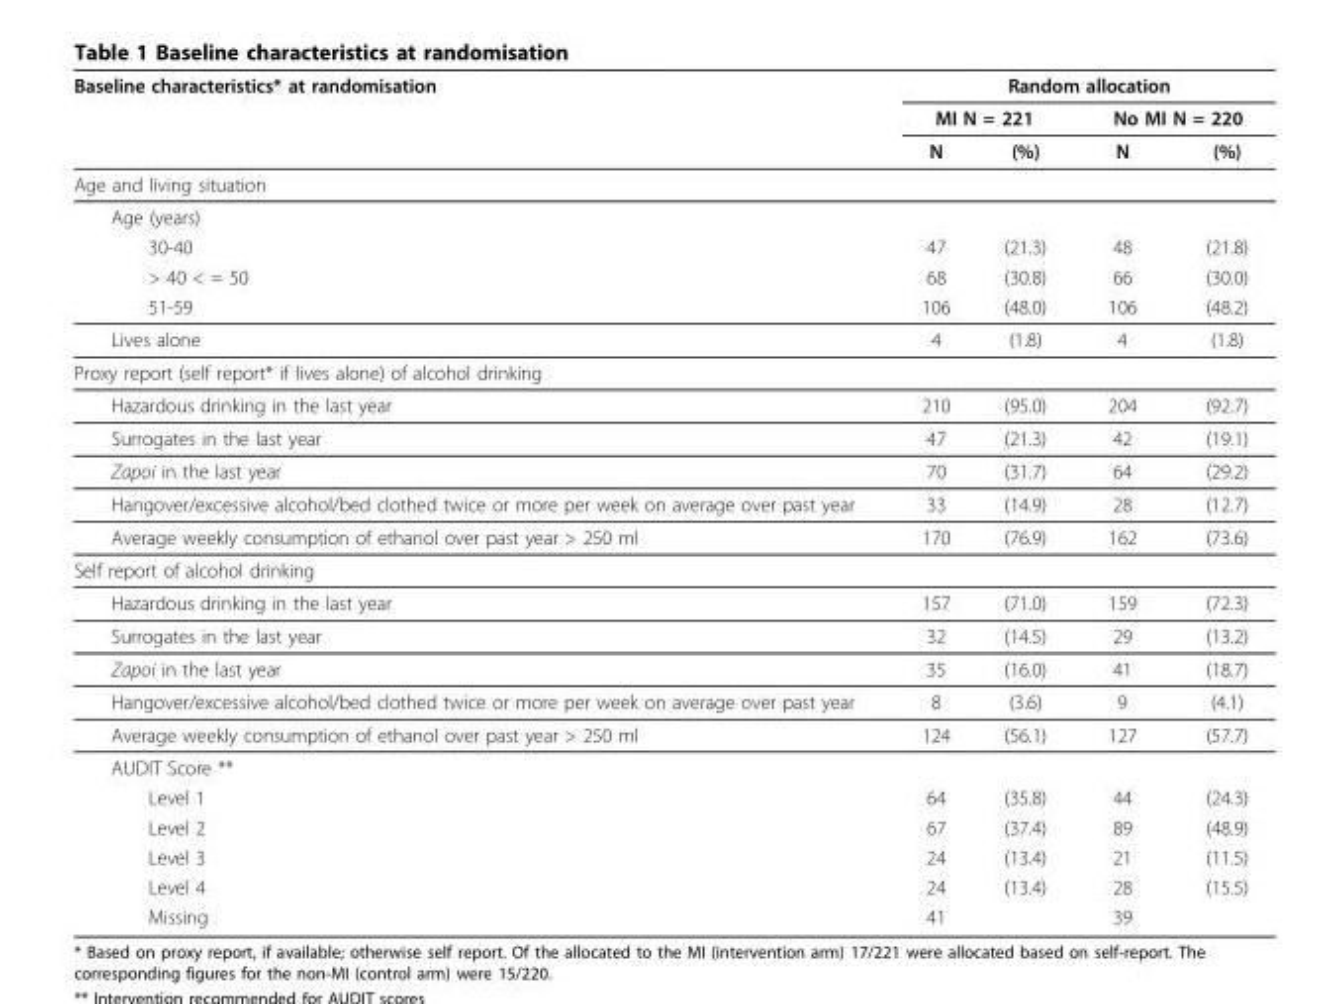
<table><thead><tr><td rowspan="3">Baseline characteristics* at randomisation</td><td colspan="4">Random allocation</td></tr><tr><td colspan="2">MI N = 221</td><td colspan="2">No MI N = 220</td></tr><tr><td>N</td><td>(%)</td><td>N</td><td>(%)</td></tr></thead><tbody><tr><td colspan="5">Age and living situation</td></tr><tr><td colspan="5">Age (years)</td></tr><tr><td>30-40</td><td>47</td><td>(21.3)</td><td>48</td><td>(21.8)</td></tr><tr><td>&gt; 40 &lt; = 50</td><td>68</td><td>(30.8)</td><td>66</td><td>(30.0)</td></tr><tr><td>51-59</td><td>106</td><td>(48.0)</td><td>106</td><td>(48.2)</td></tr><tr><td>Lives alone</td><td>4</td><td>(1.8)</td><td>4</td><td>(1.8)</td></tr><tr><td colspan="5">Proxy report (self report* if lives alone) of alcohol drinking</td></tr><tr><td>Hazardous drinking in the last year</td><td>210</td><td>(95.0)</td><td>204</td><td>(92.7)</td></tr><tr><td>Surrogates in the last year</td><td>47</td><td>(21.3)</td><td>42</td><td>(19.1)</td></tr><tr><td>Zapoi in the last year</td><td>70</td><td>(31.7)</td><td>64</td><td>(29.2)</td></tr><tr><td>Hangover/excessive alcohol/bed clothed twice or more per week on average over past year</td><td>33</td><td>(14.9)</td><td>28</td><td>(12.7)</td></tr><tr><td>Average weekly consumption of ethanol over past year &gt; 250 ml</td><td>170</td><td>(76.9)</td><td>162</td><td>(73.6)</td></tr><tr><td colspan="5">Self report of alcohol drinking</td></tr><tr><td>Hazardous drinking in the last year</td><td>157</td><td>(71.0)</td><td>159</td><td>(72.3)</td></tr><tr><td>Surrogates in the last year</td><td>32</td><td>(14.5)</td><td>29</td><td>(13.2)</td></tr><tr><td>Zapoi in the last year</td><td>35</td><td>(16.0)</td><td>41</td><td>(18.7)</td></tr><tr><td>Hangover/excessive alcohol/bed clothed twice or more per week on average over past year</td><td>8</td><td>(3.6)</td><td>9</td><td>(4.1)</td></tr><tr><td>Average weekly consumption of ethanol over past year &gt; 250 ml</td><td>124</td><td>(56.1)</td><td>127</td><td>(57.7)</td></tr><tr><td colspan="5">AUDIT Score **</td></tr><tr><td>Level 1</td><td>64</td><td>(35.8)</td><td>44</td><td>(24.3)</td></tr><tr><td>Level 2</td><td>67</td><td>(37.4)</td><td>89</td><td>(48.9)</td></tr><tr><td>Level 3</td><td>24</td><td>(13.4)</td><td>21</td><td>(11.5)</td></tr><tr><td>Level 4</td><td>24</td><td>(13.4)</td><td>28</td><td>(15.5)</td></tr><tr><td>Missing</td><td>41</td><td></td><td>39</td><td></td></tr></tbody></table>